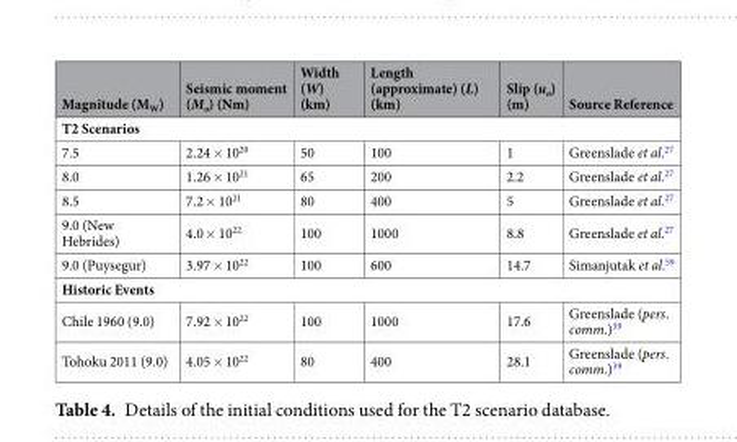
<table><thead><tr><td>Magnitude (M<sub>W</sub>)</td><td>Seismic moment (M<sub>o</sub>) (Nm)</td><td>Width (W) (km)</td><td>Length (approximate) (L) (km)</td><td>Slip (u<sub>o</sub>) (m)</td><td>Source Reference</td></tr></thead><tbody><tr><td colspan="6">T2 Scenarios</td></tr><tr><td>7.5</td><td>2.24 × 10<sup>20</sup></td><td>50</td><td>100</td><td>1</td><td>Greenslade et al.<sup>27</sup></td></tr><tr><td>8.0</td><td>1.26 × 10<sup>21</sup></td><td>65</td><td>200</td><td>2.2</td><td>Greenslade et al.<sup>27</sup></td></tr><tr><td>8.5</td><td>7.2 × 10<sup>21</sup></td><td>80</td><td>400</td><td>5</td><td>Greenslade et al.<sup>27</sup></td></tr><tr><td>9.0 (New Hebrides)</td><td>4.0 × 10<sup>22</sup></td><td>100</td><td>1000</td><td>8.8</td><td>Greenslade et al.<sup>27</sup></td></tr><tr><td>9.0 (Puysegur)</td><td>3.97 × 10<sup>22</sup></td><td>100</td><td>600</td><td>14.7</td><td>Simanjutak et al.<sup>59</sup></td></tr><tr><td colspan="6">Historic Events</td></tr><tr><td>Chile 1960 (9.0)</td><td>7.92 × 10<sup>22</sup></td><td>100</td><td>1000</td><td>17.6</td><td>Greenslade (pers. comm.)<sup>39</sup></td></tr><tr><td>Tohoku 2011 (9.0)</td><td>4.05 × 10<sup>22</sup></td><td>80</td><td>400</td><td>28.1</td><td>Greenslade (pers. comm.)<sup>39</sup></td></tr></tbody></table>